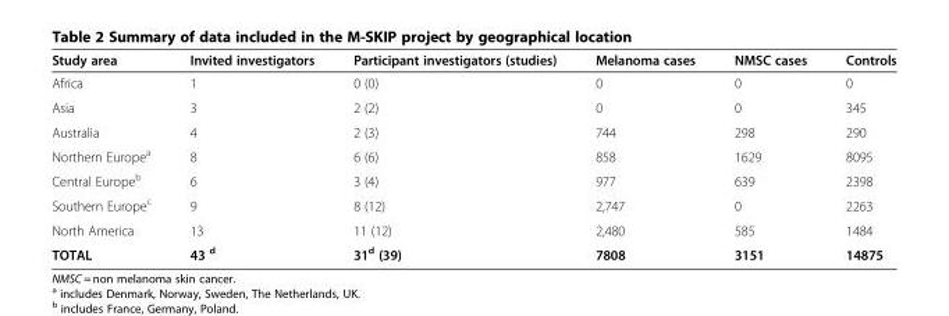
<table><thead><tr><td>Study area</td><td>Invited investigators</td><td>Participant investigators (studies)</td><td>Melanoma cases</td><td>NMSC cases</td><td>Controls</td></tr></thead><tbody><tr><td>Africa</td><td>1</td><td>0 (0)</td><td>0</td><td>0</td><td>0</td></tr><tr><td>Asia</td><td>3</td><td>2 (2)</td><td>0</td><td>0</td><td>345</td></tr><tr><td>Australia</td><td>4</td><td>2 (3)</td><td>744</td><td>298</td><td>290</td></tr><tr><td>Northern Europe<sup>a</sup></td><td>8</td><td>6 (6)</td><td>858</td><td>1629</td><td>8095</td></tr><tr><td>Central Europe<sup>b</sup></td><td>6</td><td>3 (4)</td><td>977</td><td>639</td><td>2398</td></tr><tr><td>Southern Europe<sup>c</sup></td><td>9</td><td>8 (12)</td><td>2,747</td><td>0</td><td>2263</td></tr><tr><td>North America</td><td>13</td><td>11 (12)</td><td>2,480</td><td>585</td><td>1484</td></tr><tr><td>TOTAL</td><td>43 <sup>d</sup></td><td>31<sup>d</sup> (39)</td><td>7808</td><td>3151</td><td>14875</td></tr></tbody></table>